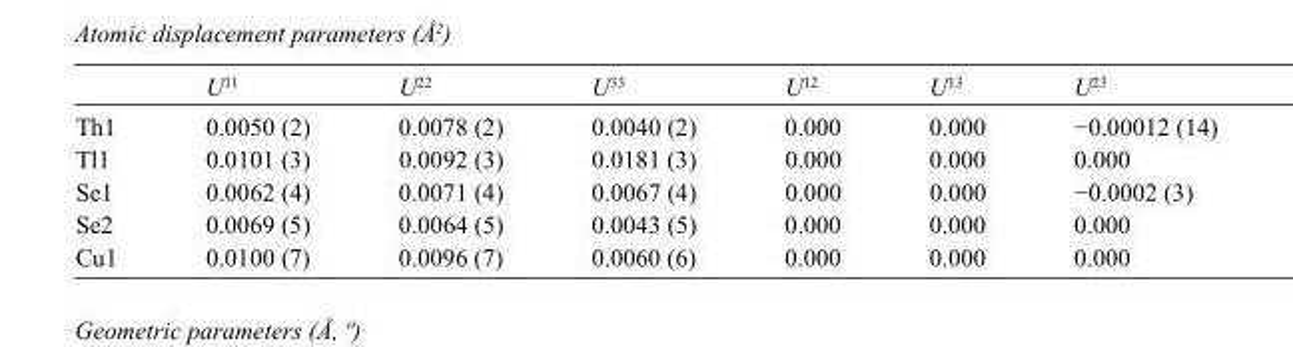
<table><thead><tr><td></td><td>U<sup>11</sup></td><td>U<sup>22</sup></td><td>U<sup>33</sup></td><td>U<sup>12</sup></td><td>U<sup>13</sup></td><td>U<sup>23</sup></td></tr></thead><tbody><tr><td>Th1</td><td>0.0050 (2)</td><td>0.0078 (2)</td><td>0.0040 (2)</td><td>0.000</td><td>0.000</td><td>−0.00012 (14)</td></tr><tr><td>Tl1</td><td>0.0101 (3)</td><td>0.0092 (3)</td><td>0.0181 (3)</td><td>0.000</td><td>0.000</td><td>0.000</td></tr><tr><td>Se1</td><td>0.0062 (4)</td><td>0.0071 (4)</td><td>0.0067 (4)</td><td>0.000</td><td>0.000</td><td>−0.0002 (3)</td></tr><tr><td>Se2</td><td>0.0069 (5)</td><td>0.0064 (5)</td><td>0.0043 (5)</td><td>0.000</td><td>0.000</td><td>0.000</td></tr><tr><td>Cu1</td><td>0.0100 (7)</td><td>0.0096 (7)</td><td>0.0060 (6)</td><td>0.000</td><td>0.000</td><td>0.000</td></tr></tbody></table>